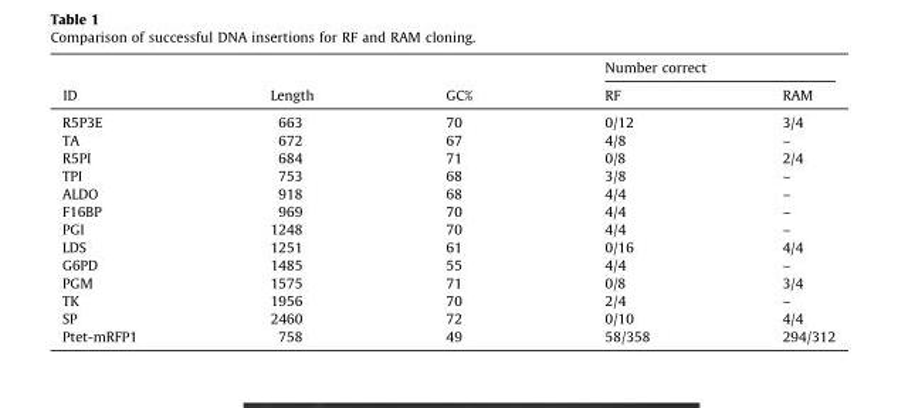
<table><thead><tr><td rowspan="2">ID</td><td rowspan="2">Length</td><td rowspan="2">GC%</td><td colspan="2">Number correct</td></tr><tr><td>RF</td><td>RAM</td></tr></thead><tbody><tr><td>R5P3E</td><td>663</td><td>70</td><td>0/12</td><td>3/4</td></tr><tr><td>TA</td><td>672</td><td>67</td><td>4/8</td><td>–</td></tr><tr><td>R5PI</td><td>684</td><td>71</td><td>0/8</td><td>2/4</td></tr><tr><td>TPI</td><td>753</td><td>68</td><td>3/8</td><td>–</td></tr><tr><td>ALDO</td><td>918</td><td>68</td><td>4/4</td><td>–</td></tr><tr><td>F16BP</td><td>969</td><td>70</td><td>4/4</td><td>–</td></tr><tr><td>PGI</td><td>1248</td><td>70</td><td>4/4</td><td>–</td></tr><tr><td>LDS</td><td>1251</td><td>61</td><td>0/16</td><td>4/4</td></tr><tr><td>G6PD</td><td>1485</td><td>55</td><td>4/4</td><td>–</td></tr><tr><td>PGM</td><td>1575</td><td>71</td><td>0/8</td><td>3/4</td></tr><tr><td>TK</td><td>1956</td><td>70</td><td>2/4</td><td>–</td></tr><tr><td>SP</td><td>2460</td><td>72</td><td>0/10</td><td>4/4</td></tr><tr><td>Ptet-mRFP1</td><td>758</td><td>49</td><td>58/358</td><td>294/312</td></tr></tbody></table>